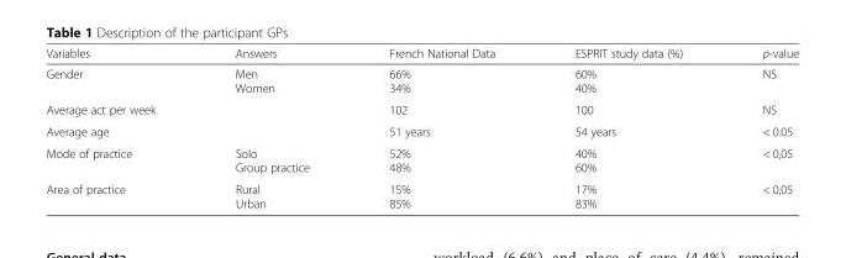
<table><thead><tr><td>Variables</td><td>Answers</td><td>French National Data</td><td>ESPRIT study data (%)</td><td>p-value</td></tr></thead><tbody><tr><td>Gender</td><td>Men Women</td><td>66% 34%</td><td>60% 40%</td><td>NS</td></tr><tr><td>Average act per week</td><td></td><td>102</td><td>100</td><td>NS</td></tr><tr><td>Average age</td><td></td><td>51 years</td><td>54 years</td><td>&lt; 0.05</td></tr><tr><td>Mode of practice</td><td>Solo Group practice</td><td>52% 48%</td><td>40% 60%</td><td>&lt; 0,05</td></tr><tr><td>Area of practice</td><td>Rural Urban</td><td>15% 85%</td><td>17% 83%</td><td>&lt; 0,05</td></tr></tbody></table>